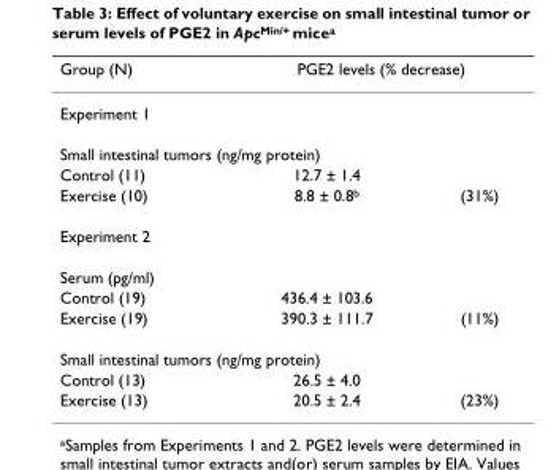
<table><thead><tr><td>Group (N)</td><td colspan="2">PGE2 levels (% decrease)</td></tr><tr><td rowspan="2" colspan="3">Experiment 1 Small intestinal tumors (ng/mg protein)</td></tr><tr></tr><tr><td>Control (11)</td><td>12.7 ± 1.4</td><td></td></tr></thead><tbody><tr><td>Exercise (10)</td><td>8.8 ± 0.8<sup>b</sup></td><td>(31%)</td></tr><tr><td colspan="3">Experiment 2</td></tr><tr><td colspan="3">Serum (pg/ml)</td></tr><tr><td>Control (19)</td><td>436.4 ± 103.6</td><td></td></tr><tr><td>Exercise (19)</td><td>390.3 ± 111.7</td><td>(11%)</td></tr><tr><td colspan="3">Small intestinal tumors (ng/mg protein)</td></tr><tr><td>Control (13)</td><td>26.5 ± 4.0</td><td></td></tr><tr><td>Exercise (13)</td><td>20.5 ± 2.4</td><td>(23%)</td></tr></tbody></table>